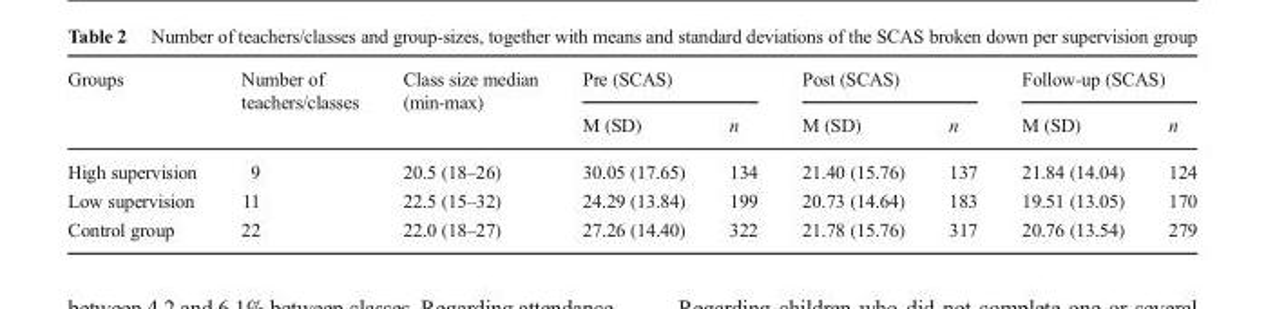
<table><thead><tr><td rowspan="2">Groups</td><td rowspan="2">Number of teachers/classes</td><td rowspan="2">Class size median (min-max)</td><td colspan="2">Pre (SCAS)</td><td colspan="2">Post (SCAS)</td><td colspan="2">Follow-up (SCAS)</td></tr><tr><td>M (SD)</td><td>n</td><td>M (SD)</td><td>n</td><td>M (SD)</td><td>n</td></tr></thead><tbody><tr><td>High supervision</td><td>9</td><td>20.5 (18–26)</td><td>30.05 (17.65)</td><td>134</td><td>21.40 (15.76)</td><td>137</td><td>21.84 (14.04)</td><td>124</td></tr><tr><td>Low supervision</td><td>11</td><td>22.5 (15–32)</td><td>24.29 (13.84)</td><td>199</td><td>20.73 (14.64)</td><td>183</td><td>19.51 (13.05)</td><td>170</td></tr><tr><td>Control group</td><td>22</td><td>22.0 (18–27)</td><td>27.26 (14.40)</td><td>322</td><td>21.78 (15.76)</td><td>317</td><td>20.76 (13.54)</td><td>279</td></tr></tbody></table>